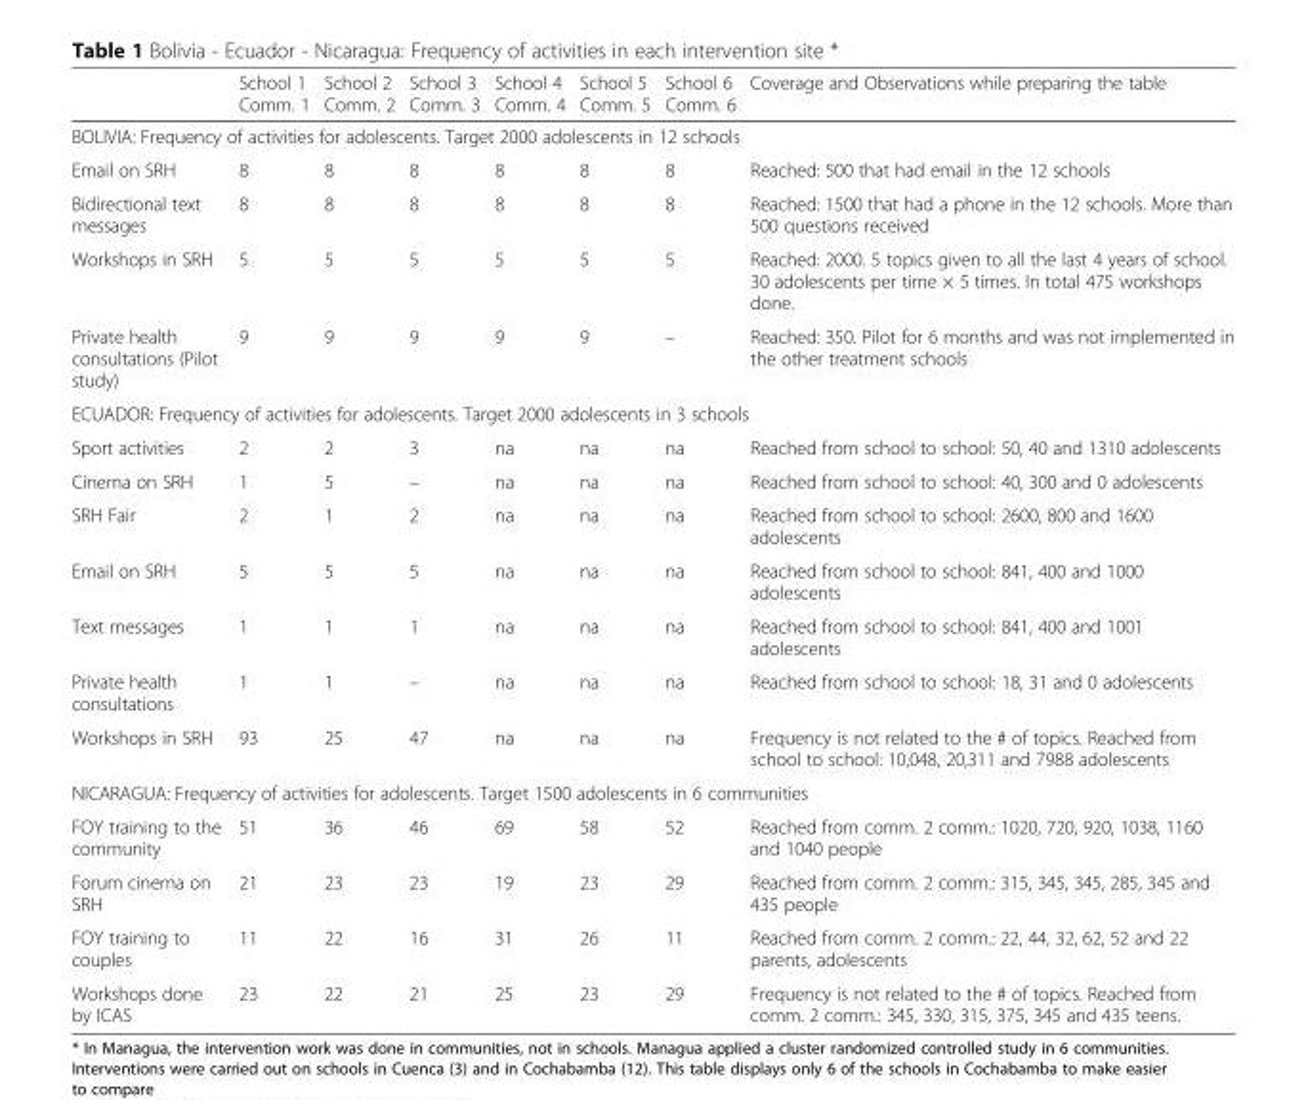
<table><thead><tr><td></td><td>School 1 Comm. 1</td><td>School 2 Comm. 2</td><td>School 3 Comm. 3</td><td>School 4 Comm. 4</td><td>School 5 Comm. 5</td><td>School 6 Comm. 6</td><td>Coverage and Observations while preparing the table</td></tr></thead><tbody><tr><td colspan="8">BOLIVIA: Frequency of activities for adolescents. Target 2000 adolescents in 12 schools</td></tr><tr><td>Email on SRH</td><td>8</td><td>8</td><td>8</td><td>8</td><td>8</td><td>8</td><td>Reached: 500 that had email in the 12 schools</td></tr><tr><td>Bidirectional text messages</td><td>8</td><td>8</td><td>8</td><td>8</td><td>8</td><td>8</td><td>Reached: 1500 that had a phone in the 12 schools. More than 500 questions received</td></tr><tr><td>Workshops in SRH</td><td>5</td><td>5</td><td>5</td><td>5</td><td>5</td><td>5</td><td>Reached: 2000. 5 topics given to all the last 4 years of school. 30 adolescents per time × 5 times. In total 475 workshops done.</td></tr><tr><td>Private health consultations (Pilot study)</td><td>9</td><td>9</td><td>9</td><td>9</td><td>9</td><td>–</td><td>Reached: 350. Pilot for 6 months and was not implemented in the other treatment schools</td></tr><tr><td colspan="8">ECUADOR: Frequency of activities for adolescents. Target 2000 adolescents in 3 schools</td></tr><tr><td>Sport activities</td><td>2</td><td>2</td><td>3</td><td>na</td><td>na</td><td>na</td><td>Reached from school to school: 50, 40 and 1310 adolescents</td></tr><tr><td>Cinema on SRH</td><td>1</td><td>5</td><td>–</td><td>na</td><td>na</td><td>na</td><td>Reached from school to school: 40, 300 and 0 adolescents</td></tr><tr><td>SRH Fair</td><td>2</td><td>1</td><td>2</td><td>na</td><td>na</td><td>na</td><td>Reached from school to school: 2600, 800 and 1600 adolescents</td></tr><tr><td>Email on SRH</td><td>5</td><td>5</td><td>5</td><td>na</td><td>na</td><td>na</td><td>Reached from school to school: 841, 400 and 1000 adolescents</td></tr><tr><td>Text messages</td><td>1</td><td>1</td><td>1</td><td>na</td><td>na</td><td>na</td><td>Reached from school to school: 841, 400 and 1001 adolescents</td></tr><tr><td>Private health consultations</td><td>1</td><td>1</td><td>–</td><td>na</td><td>na</td><td>na</td><td>Reached from school to school: 18, 31 and 0 adolescents</td></tr><tr><td>Workshops in SRH</td><td>93</td><td>25</td><td>47</td><td>na</td><td>na</td><td>na</td><td>Frequency is not related to the # of topics. Reached from school to school: 10,048, 20,311 and 7988 adolescents</td></tr><tr><td colspan="8">NICARAGUA: Frequency of activities for adolescents. Target 1500 adolescents in 6 communities</td></tr><tr><td>FOY training to the community</td><td>51</td><td>36</td><td>46</td><td>69</td><td>58</td><td>52</td><td>Reached from comm. 2 comm.: 1020, 720, 920, 1038, 1160 and 1040 people</td></tr><tr><td>Forum cinema on SRH</td><td>21</td><td>23</td><td>23</td><td>19</td><td>23</td><td>29</td><td>Reached from comm. 2 comm.: 315, 345, 345, 285, 345 and 435 people</td></tr><tr><td>FOY training to couples</td><td>11</td><td>22</td><td>16</td><td>31</td><td>26</td><td>11</td><td>Reached from comm. 2 comm.: 22, 44, 32, 62, 52 and 22 parents, adolescents</td></tr><tr><td>Workshops done by ICAS</td><td>23</td><td>22</td><td>21</td><td>25</td><td>23</td><td>29</td><td>Frequency is not related to the # of topics. Reached from comm. 2 comm.: 345, 330, 315, 375, 345 and 435 teens.</td></tr></tbody></table>